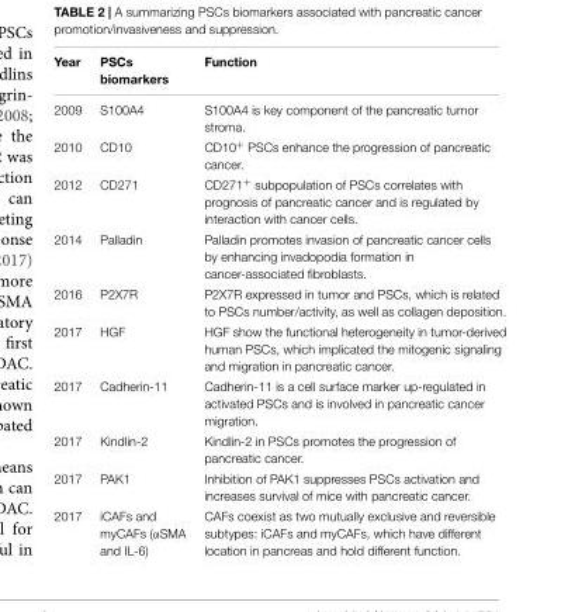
<table><thead><tr><td>Year</td><td>PSCs biomarkers</td><td>Function</td></tr></thead><tbody><tr><td>2009</td><td>S100A4</td><td>S100A4 is key component of the pancreatic tumor stroma.</td></tr><tr><td>2010</td><td>CD10</td><td>CD10<sup>+</sup> PSCs enhance the progression of pancreatic cancer.</td></tr><tr><td>2012</td><td>CD271</td><td>CD271<sup>+</sup> subpopulation of PSCs correlates with prognosis of pancreatic cancer and is regulated by interaction with cancer cells.</td></tr><tr><td>2014</td><td>Palladin</td><td>Palladin promotes invasion of pancreatic cancer cells by enhancing invadopodia formation in cancer-associated fibroblasts.</td></tr><tr><td>2016</td><td>P2X7R</td><td>P2X7R expressed in tumor and PSCs, which is related to PSCs number/activity, as well as collagen deposition.</td></tr><tr><td>2017</td><td>HGF</td><td>HGF show the functional heterogeneity in tumor-derived human PSCs, which implicated the mitogenic signaling and migration in pancreatic cancer.</td></tr><tr><td>2017</td><td>Cadherin-11</td><td>Cadherin-11 is a cell surface marker up-regulated in activated PSCs and is involved in pancreatic cancer migration.</td></tr><tr><td>2017</td><td>Kindlin-2</td><td>Kindlin-2 in PSCs promotes the progression of pancreatic cancer.</td></tr><tr><td>2017</td><td>PAK1</td><td>Inhibition of PAK1 suppresses PSCs activation and increases survival of mice with pancreatic cancer.</td></tr><tr><td>2017</td><td>iCAFs and myCAFs (αSMA and IL-6)</td><td>CAFs coexist as two mutually exclusive and reversible subtypes: iCAFs and myCAFs, which have different location in pancreas and hold different function.</td></tr></tbody></table>